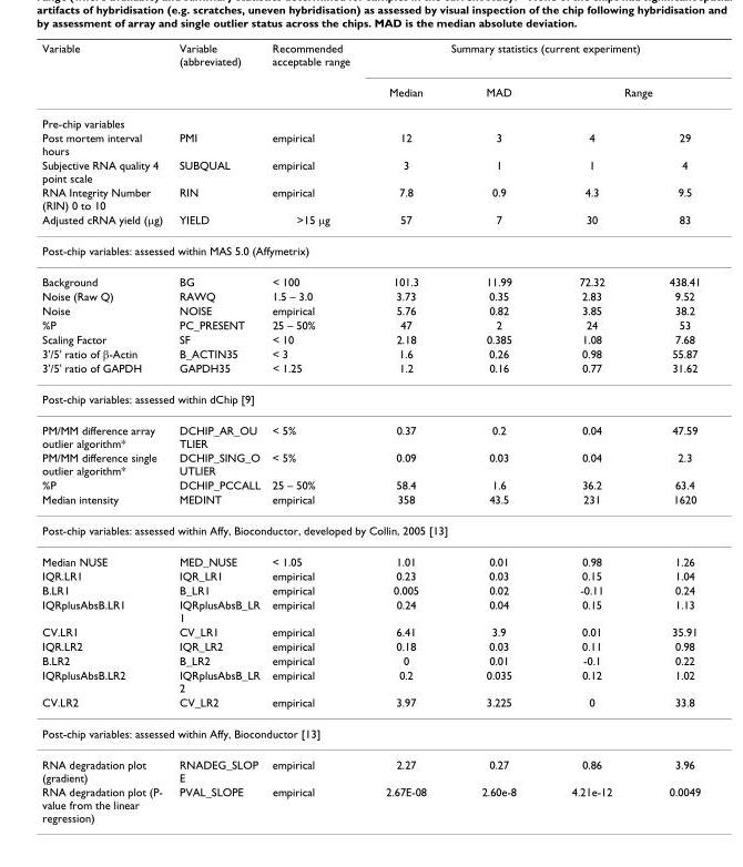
<table><thead><tr><td rowspan="2">Variable</td><td rowspan="2">Variable (abbreviated)</td><td rowspan="2">Recommended acceptable range</td><td colspan="4">Summary statistics (current experiment)</td></tr><tr><td>Median</td><td>MAD</td><td colspan="2">Range</td></tr><tr><td colspan="7">Pre-chip variables</td></tr><tr><td>Post mortem interval hours</td><td>PMI</td><td>empirical</td><td>12</td><td>3</td><td>4</td><td>29</td></tr></thead><tbody><tr><td>Subjective RNA quality 4 point scale</td><td>SUBQUAL</td><td>empirical</td><td>3</td><td>1</td><td>1</td><td>4</td></tr><tr><td>RNA Integrity Number (RIN) 0 to 10</td><td>RIN</td><td>empirical</td><td>7.8</td><td>0.9</td><td>4.3</td><td>9.5</td></tr><tr><td>Adjusted cRNA yield (µg)</td><td>YIELD</td><td>&gt;15 µg</td><td>57</td><td>7</td><td>30</td><td>83</td></tr><tr><td colspan="7">Post-chip variables: assessed within MAS 5.0 (Affymetrix)</td></tr><tr><td>Background</td><td>BG</td><td>&lt; 100</td><td>101.3</td><td>11.99</td><td>72.32</td><td>438.41</td></tr><tr><td>Noise (Raw Q)</td><td>RAWQ</td><td>1.5 – 3.0</td><td>3.73</td><td>0.35</td><td>2.83</td><td>9.52</td></tr><tr><td>Noise</td><td>NOISE</td><td>empirical</td><td>5.76</td><td>0.82</td><td>3.85</td><td>38.2</td></tr><tr><td>%P</td><td>PC_PRESENT</td><td>25 – 50%</td><td>47</td><td>2</td><td>24</td><td>53</td></tr><tr><td>Scaling Factor</td><td>SF</td><td>&lt; 10</td><td>2.18</td><td>0.385</td><td>1.08</td><td>7.68</td></tr><tr><td>3&#x27;/5&#x27; ratio of β-Actin</td><td>B_ACTIN35</td><td>&lt; 3</td><td>1.6</td><td>0.26</td><td>0.98</td><td>55.87</td></tr><tr><td>3&#x27;/5&#x27; ratio of GAPDH</td><td>GAPDH35</td><td>&lt; 1.25</td><td>1.2</td><td>0.16</td><td>0.77</td><td>31.62</td></tr><tr><td colspan="7">Post-chip variables: assessed within dChip [9]</td></tr><tr><td>PM/MM difference array outlier algorithm*</td><td>DCHIP_AR_OU TLIER</td><td>&lt; 5%</td><td>0.37</td><td>0.2</td><td>0.04</td><td>47.59</td></tr><tr><td>PM/MM difference single outlier algorithm*</td><td>DCHIP_SING_O UTLIER</td><td>&lt; 5%</td><td>0.09</td><td>0.03</td><td>0.04</td><td>2.3</td></tr><tr><td>%P</td><td>DCHIP_PCCALL</td><td>25 – 50%</td><td>58.4</td><td>1.6</td><td>36.2</td><td>63.4</td></tr><tr><td>Median intensity</td><td>MEDINT</td><td>empirical</td><td>358</td><td>43.5</td><td>231</td><td>1620</td></tr><tr><td colspan="7">Post-chip variables: assessed within Affy, Bioconductor, developed by Collin, 2005 [13]</td></tr><tr><td>Median NUSE</td><td>MED_NUSE</td><td>&lt; 1.05</td><td>1.01</td><td>0.01</td><td>0.98</td><td>1.26</td></tr><tr><td>IQR.LR1</td><td>IQR_LR1</td><td>empirical</td><td>0.23</td><td>0.03</td><td>0.15</td><td>1.04</td></tr><tr><td>B.LR1</td><td>B_LR1</td><td>empirical</td><td>0.005</td><td>0.02</td><td>-0.11</td><td>0.24</td></tr><tr><td>IQRplusAbsB.LR1</td><td>IQRplusAbsB_LR 1</td><td>empirical</td><td>0.24</td><td>0.04</td><td>0.15</td><td>1.13</td></tr><tr><td>CV.LR1</td><td>CV_LR1</td><td>empirical</td><td>6.41</td><td>3.9</td><td>0.01</td><td>35.91</td></tr><tr><td>IQR.LR2</td><td>IQR_LR2</td><td>empirical</td><td>0.18</td><td>0.03</td><td>0.11</td><td>0.98</td></tr><tr><td>B.LR2</td><td>B_LR2</td><td>empirical</td><td>0</td><td>0.01</td><td>-0.1</td><td>0.22</td></tr><tr><td>IQRplusAbsB.LR2</td><td>IQRplusAbsB_LR 2</td><td>empirical</td><td>0.2</td><td>0.035</td><td>0.12</td><td>1.02</td></tr><tr><td>CV.LR2</td><td>CV_LR2</td><td>empirical</td><td>3.97</td><td>3.225</td><td>0</td><td>33.8</td></tr><tr><td colspan="7">Post-chip variables: assessed within Affy, Bioconductor [13]</td></tr><tr><td>RNA degradation plot (gradient)</td><td>RNADEG_SLOP E</td><td>empirical</td><td>2.27</td><td>0.27</td><td>0.86</td><td>3.96</td></tr><tr><td>RNA degradation plot (P- value from the linear regression)</td><td>PVAL_SLOPE</td><td>empirical</td><td>2.67E-08</td><td>2.60e-8</td><td>4.21e-12</td><td>0.0049</td></tr></tbody></table>